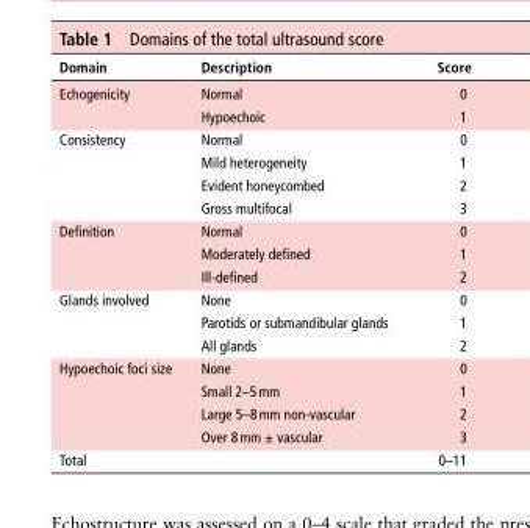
<table><thead><tr><td>domain</td><td>description</td><td>score</td></tr></thead><tbody><tr><td rowspan="2">Echogenicity</td><td>Normal</td><td>0</td></tr><tr><td>Hypoechoic</td><td>1</td></tr><tr><td rowspan="4">Consistency</td><td>Normal</td><td>0</td></tr><tr><td>Mild heterogeneity</td><td>1</td></tr><tr><td>Evident honeycombed</td><td>2</td></tr><tr><td>Gross multifocal</td><td>3</td></tr><tr><td rowspan="3">Definition</td><td>Normal</td><td>0</td></tr><tr><td>Moderately defined</td><td>1</td></tr><tr><td>Ill-defined</td><td>2</td></tr><tr><td rowspan="3">Glands involved</td><td>None</td><td>0</td></tr><tr><td>Parotids or submandibular glands</td><td>1</td></tr><tr><td>All glands</td><td>2</td></tr><tr><td rowspan="4">Hypoechoic foci size</td><td>None</td><td>0</td></tr><tr><td>Small 2–5 mm</td><td>1</td></tr><tr><td>Large 5–8 mm non-vascular</td><td>2</td></tr><tr><td>Over 8 mm ± vascular</td><td>3</td></tr><tr><td>Total</td><td></td><td>0–11</td></tr></tbody></table>